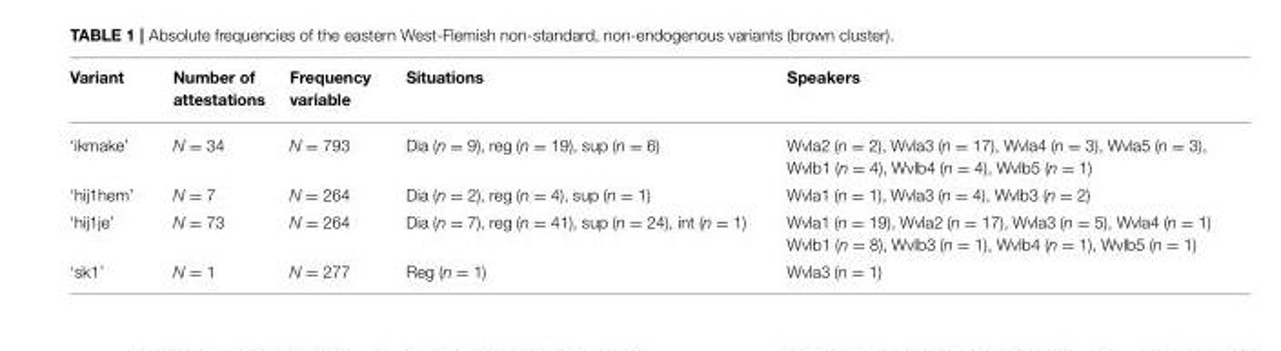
<table><thead><tr><td>Variant</td><td>Number of attestations</td><td>Frequency variable</td><td>Situations</td><td>Speakers</td></tr></thead><tbody><tr><td>‘ikmake’</td><td>N = 34</td><td>N = 793</td><td>Dia (n = 9), reg (n = 19), sup (n = 6)</td><td>Wvla2 (n = 2), Wvla3 (n = 17), Wvla4 (n = 3), Wvla5 (n = 3), Wvlb1 (n = 4), Wvlb4 (n = 4), Wvlb5 (n = 1)</td></tr><tr><td>‘hij1hem’</td><td>N = 7</td><td>N = 264</td><td>Dia (n = 2), reg (n = 4), sup (n = 1)</td><td>Wvla1 (n = 1), Wvla3 (n = 4), Wvlb3 (n = 2)</td></tr><tr><td>‘hij1je’</td><td>N = 73</td><td>N = 264</td><td>Dia (n = 7), reg (n = 41), sup (n = 24), int (n = 1)</td><td>Wvla1 (n = 19), Wvla2 (n = 17), Wvla3 (n = 5), Wvla4 (n = 1) Wvlb1 (n = 8), Wvlb3 (n = 1), Wvlb4 (n = 1), Wvlb5 (n = 1)</td></tr><tr><td>‘sk1’</td><td>N = 1</td><td>N = 277</td><td>Reg (n = 1)</td><td>Wvla3 (n = 1)</td></tr></tbody></table>